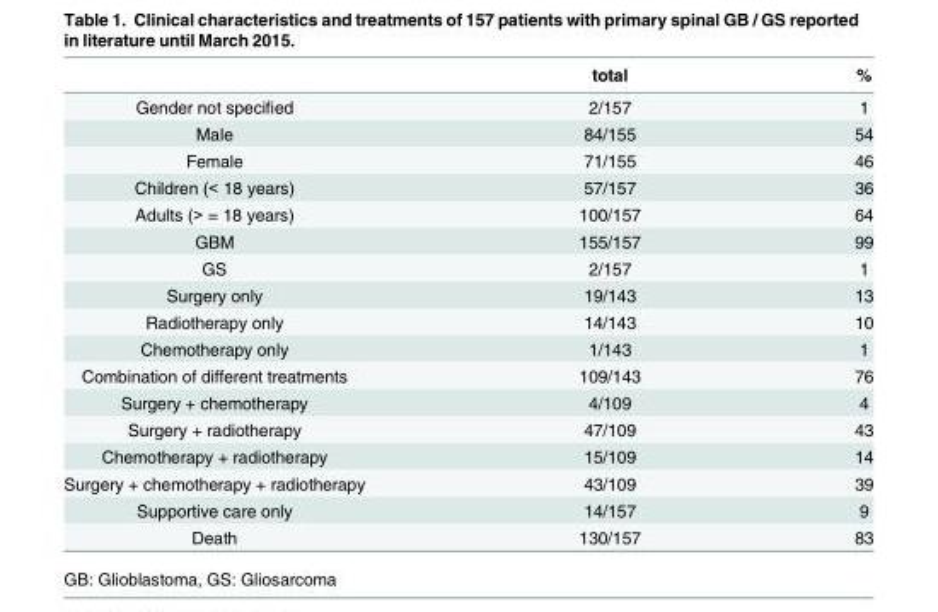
<table><thead><tr><td></td><td>total</td><td>%</td></tr></thead><tbody><tr><td>Gender not specified</td><td>2/157</td><td>1</td></tr><tr><td>Male</td><td>84/155</td><td>54</td></tr><tr><td>Female</td><td>71/155</td><td>46</td></tr><tr><td>Children (&lt; 18 years)</td><td>57/157</td><td>36</td></tr><tr><td>Adults (&gt; = 18 years)</td><td>100/157</td><td>64</td></tr><tr><td>GBM</td><td>155/157</td><td>99</td></tr><tr><td>GS</td><td>2/157</td><td>1</td></tr><tr><td>Surgery only</td><td>19/143</td><td>13</td></tr><tr><td>Radiotherapy only</td><td>14/143</td><td>10</td></tr><tr><td>Chemotherapy only</td><td>1/143</td><td>1</td></tr><tr><td>Combination of different treatments</td><td>109/143</td><td>76</td></tr><tr><td>Surgery + chemotherapy</td><td>4/109</td><td>4</td></tr><tr><td>Surgery + radiotherapy</td><td>47/109</td><td>43</td></tr><tr><td>Chemotherapy + radiotherapy</td><td>15/109</td><td>14</td></tr><tr><td>Surgery + chemotherapy + radiotherapy</td><td>43/109</td><td>39</td></tr><tr><td>Supportive care only</td><td>14/157</td><td>9</td></tr><tr><td>Death</td><td>130/157</td><td>83</td></tr></tbody></table>